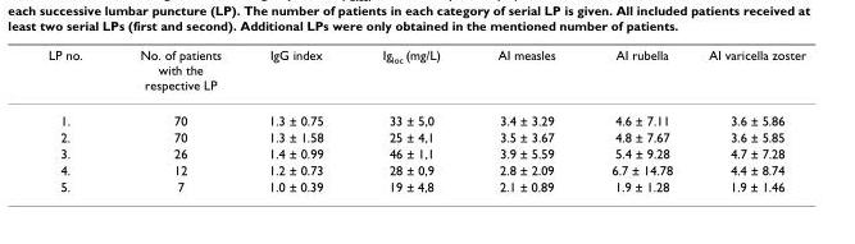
<table><thead><tr><td>LP no.</td><td>No. of patients with the respective LP</td><td>IgG index</td><td>Ig<sub>loc</sub> (mg/L)</td><td>AI measles</td><td>AI rubella</td><td>AI varicella zoster</td></tr></thead><tbody><tr><td>1.</td><td>70</td><td>1.3 ± 0.75</td><td>33 ± 5,0</td><td>3.4 ± 3.29</td><td>4.6 ± 7.11</td><td>3.6 ± 5.86</td></tr><tr><td>2.</td><td>70</td><td>1.3 ± 1.58</td><td>25 ± 4,1</td><td>3.5 ± 3.67</td><td>4.8 ± 7.67</td><td>3.6 ± 5.85</td></tr><tr><td>3.</td><td>26</td><td>1.4 ± 0.99</td><td>46 ± 1,1</td><td>3.9 ± 5.59</td><td>5.4 ± 9.28</td><td>4.7 ± 7.28</td></tr><tr><td>4.</td><td>12</td><td>1.2 ± 0.73</td><td>28 ± 0,9</td><td>2.8 ± 2.09</td><td>6.7 ± 14.78</td><td>4.4 ± 8.74</td></tr><tr><td>5.</td><td>7</td><td>1.0 ± 0.39</td><td>19 ± 4,8</td><td>2.1 ± 0.89</td><td>1.9 ± 1.28</td><td>1.9 ± 1.46</td></tr></tbody></table>